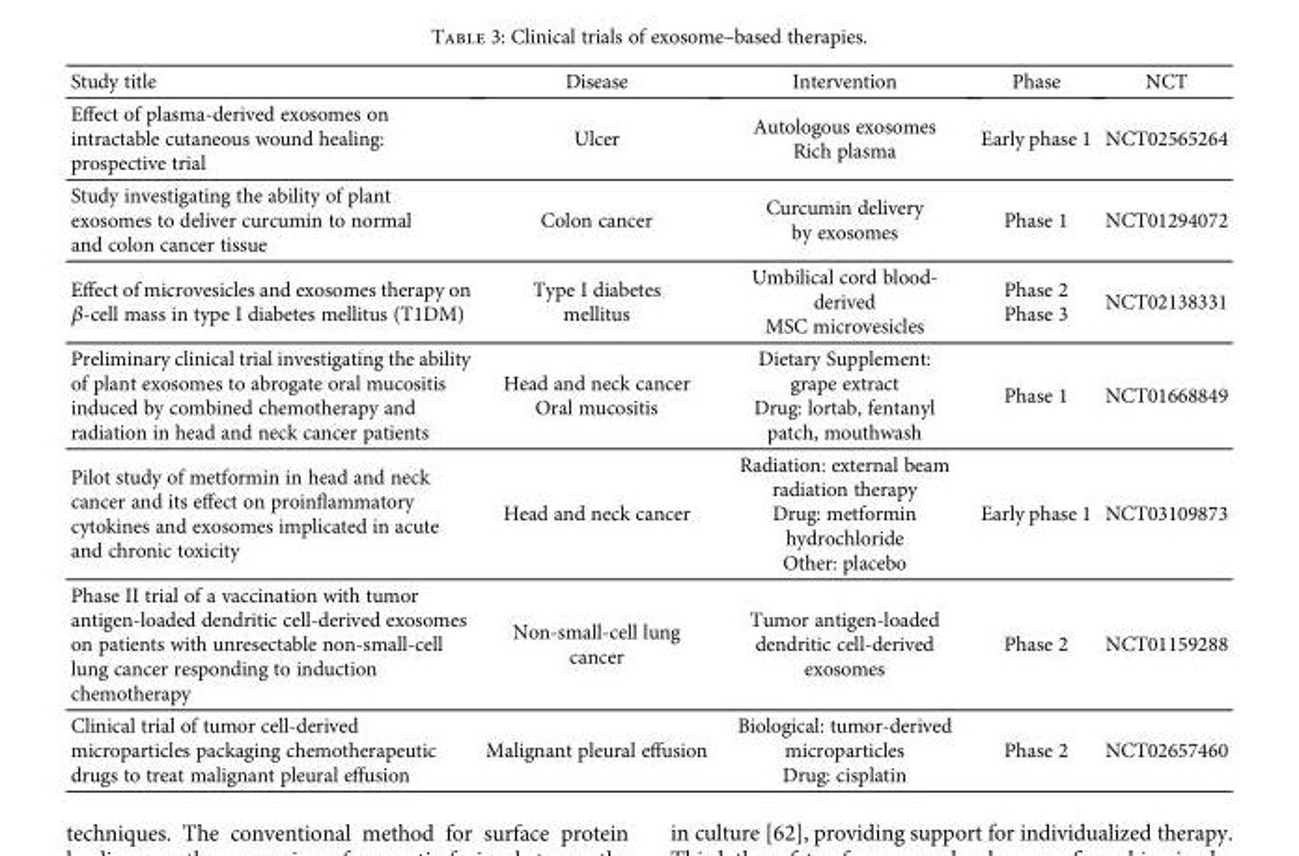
<table><thead><tr><td>Study title</td><td>Disease</td><td>Intervention</td><td>Phase</td><td>NCT</td></tr></thead><tbody><tr><td>Effect of plasma-derived exosomes on intractable cutaneous wound healing: prospective trial</td><td>Ulcer</td><td>Autologous exosomes Rich plasma</td><td>Early phase 1</td><td>NCT02565264</td></tr><tr><td>Study investigating the ability of plant exosomes to deliver curcumin to normal and colon cancer tissue</td><td>Colon cancer</td><td>Curcumin delivery by exosomes</td><td>Phase 1</td><td>NCT01294072</td></tr><tr><td>Effect of microvesicles and exosomes therapy on β-cell mass in type I diabetes mellitus (T1DM)</td><td>Type I diabetes mellitus</td><td>Umbilical cord blood- derived MSC microvesicles</td><td>Phase 2 Phase 3</td><td>NCT02138331</td></tr><tr><td>Preliminary clinical trial investigating the ability of plant exosomes to abrogate oral mucositis induced by combined chemotherapy and radiation in head and neck cancer patients</td><td>Head and neck cancer Oral mucositis</td><td>Dietary Supplement: grape extract Drug: lortab, fentanyl patch, mouthwash</td><td>Phase 1</td><td>NCT01668849</td></tr><tr><td>Pilot study of metformin in head and neck cancer and its effect on proinflammatory cytokines and exosomes implicated in acute and chronic toxicity</td><td>Head and neck cancer</td><td>Radiation: external beam radiation therapy Drug: metformin hydrochloride Other: placebo</td><td>Early phase 1</td><td>NCT03109873</td></tr><tr><td>Phase II trial of a vaccination with tumor antigen-loaded dendritic cell-derived exosomes on patients with unresectable non-small-cell lung cancer responding to induction chemotherapy</td><td>Non-small-cell lung cancer</td><td>Tumor antigen-loaded dendritic cell-derived exosomes</td><td>Phase 2</td><td>NCT01159288</td></tr><tr><td>Clinical trial of tumor cell-derived microparticles packaging chemotherapeutic drugs to treat malignant pleural effusion</td><td>Malignant pleural effusion</td><td>Biological: tumor-derived microparticles Drug: cisplatin</td><td>Phase 2</td><td>NCT02657460</td></tr></tbody></table>